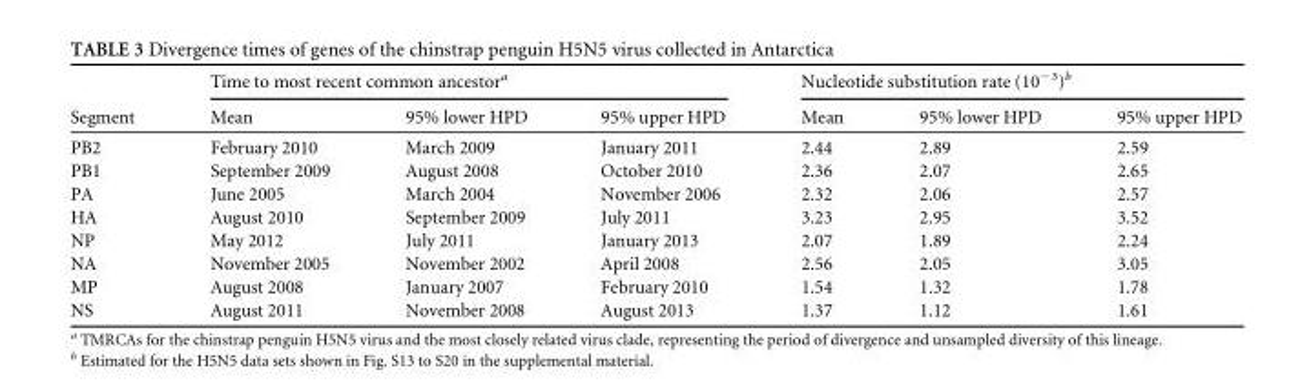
<table><thead><tr><td rowspan="2">Segment</td><td colspan="3">Time to most recent common ancestor<sup>a</sup></td><td colspan="3">Nucleotide substitution rate (10<sup>−3</sup>)<sup>b</sup></td></tr><tr><td>Mean</td><td>95% lower HPD</td><td>95% upper HPD</td><td>Mean</td><td>95% lower HPD</td><td>95% upper HPD</td></tr></thead><tbody><tr><td>PB2</td><td>February 2010</td><td>March 2009</td><td>January 2011</td><td>2.44</td><td>2.89</td><td>2.59</td></tr><tr><td>PB1</td><td>September 2009</td><td>August 2008</td><td>October 2010</td><td>2.36</td><td>2.07</td><td>2.65</td></tr><tr><td>PA</td><td>June 2005</td><td>March 2004</td><td>November 2006</td><td>2.32</td><td>2.06</td><td>2.57</td></tr><tr><td>HA</td><td>August 2010</td><td>September 2009</td><td>July 2011</td><td>3.23</td><td>2.95</td><td>3.52</td></tr><tr><td>NP</td><td>May 2012</td><td>July 2011</td><td>January 2013</td><td>2.07</td><td>1.89</td><td>2.24</td></tr><tr><td>NA</td><td>November 2005</td><td>November 2002</td><td>April 2008</td><td>2.56</td><td>2.05</td><td>3.05</td></tr><tr><td>MP</td><td>August 2008</td><td>January 2007</td><td>February 2010</td><td>1.54</td><td>1.32</td><td>1.78</td></tr><tr><td>NS</td><td>August 2011</td><td>November 2008</td><td>August 2013</td><td>1.37</td><td>1.12</td><td>1.61</td></tr></tbody></table>